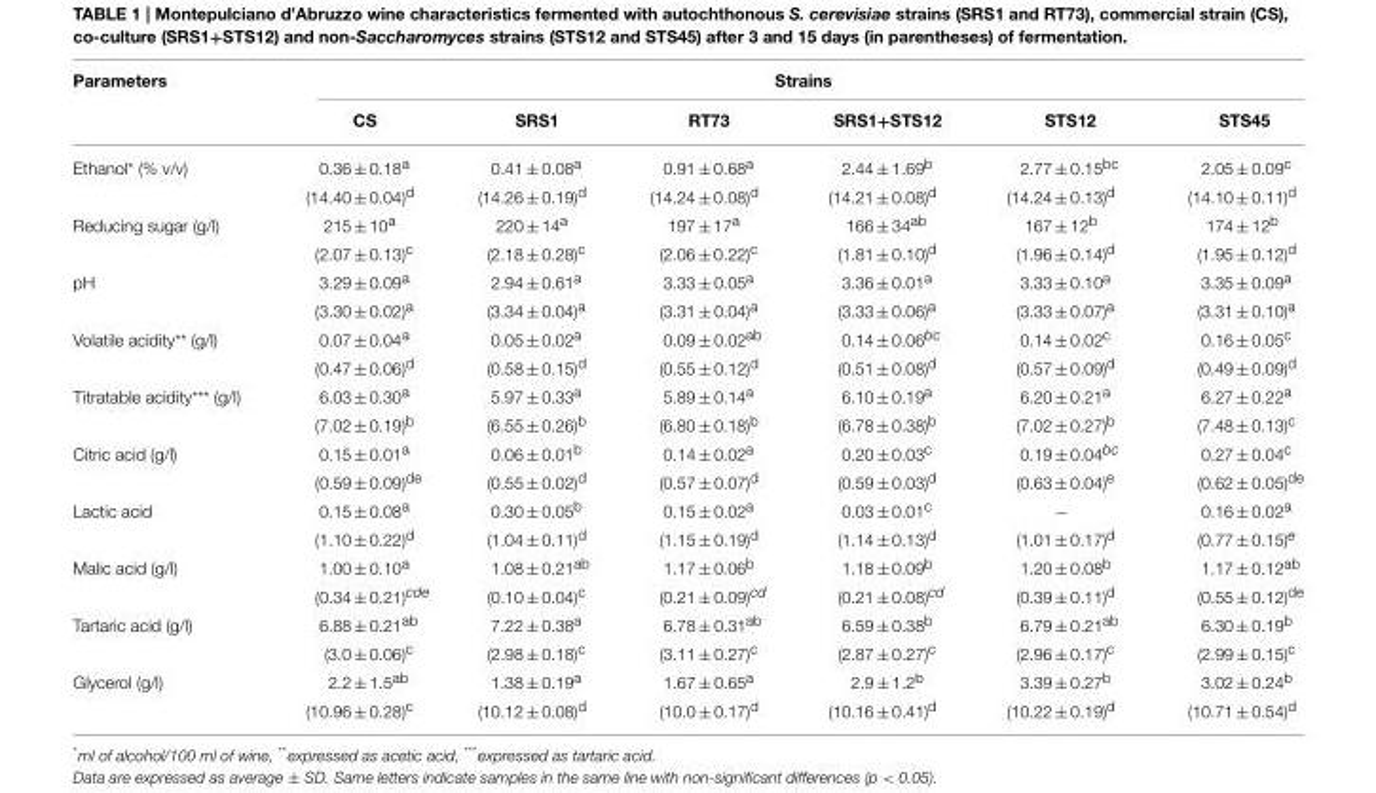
<table><thead><tr><td rowspan="2">Parameters</td><td colspan="6">Strains</td></tr><tr><td>CS</td><td>SRS1</td><td>RT73</td><td>SRS1+STS12</td><td>STS12</td><td>STS45</td></tr></thead><tbody><tr><td rowspan="2">Ethanol* (% v/v)</td><td>0.36 ± 0.18<sup>a</sup></td><td>0.41 ± 0.08<sup>a</sup></td><td>0.91 ± 0.68<sup>a</sup></td><td>2.44 ± 1.69<sup>b</sup></td><td>2.77 ± 0.15<sup>bc</sup></td><td>2.05 ± 0.09<sup>c</sup></td></tr><tr><td>(14.40 ± 0.04)<sup>d</sup></td><td>(14.26 ± 0.19)<sup>d</sup></td><td>(14.24 ± 0.08)<sup>d</sup></td><td>(14.21 ± 0.08)<sup>d</sup></td><td>(14.24 ± 0.13)<sup>d</sup></td><td>(14.10 ± 0.11)<sup>d</sup></td></tr><tr><td rowspan="2">Reducing sugar (g/l)</td><td>215 ± 10<sup>a</sup></td><td>220 ± 14<sup>a</sup></td><td>197 ± 17<sup>a</sup></td><td>166 ± 34<sup>ab</sup></td><td>167 ± 12<sup>b</sup></td><td>174 ± 12<sup>b</sup></td></tr><tr><td>(2.07 ± 0.13)<sup>c</sup></td><td>(2.18 ± 0.28)<sup>c</sup></td><td>(2.06 ± 0.22)<sup>c</sup></td><td>(1.81 ± 0.10)<sup>d</sup></td><td>(1.96 ± 0.14)<sup>d</sup></td><td>(1.95 ± 0.12)<sup>d</sup></td></tr><tr><td rowspan="2">pH</td><td>3.29 ± 0.09<sup>a</sup></td><td>2.94 ± 0.61<sup>a</sup></td><td>3.33 ± 0.05<sup>a</sup></td><td>3.36 ± 0.01<sup>a</sup></td><td>3.33 ± 0.10<sup>a</sup></td><td>3.35 ± 0.09<sup>a</sup></td></tr><tr><td>(3.30 ± 0.02)<sup>a</sup></td><td>(3.34 ± 0.04)<sup>a</sup></td><td>(3.31 ± 0.04)<sup>a</sup></td><td>(3.33 ± 0.06)<sup>a</sup></td><td>(3.33 ± 0.07)<sup>a</sup></td><td>(3.31 ± 0.10)<sup>a</sup></td></tr><tr><td rowspan="2">Volatile acidity** (g/l)</td><td>0.07 ± 0.04<sup>a</sup></td><td>0.05 ± 0.02<sup>a</sup></td><td>0.09 ± 0.02<sup>ab</sup></td><td>0.14 ± 0.06<sup>bc</sup></td><td>0.14 ± 0.02<sup>c</sup></td><td>0.16 ± 0.05<sup>c</sup></td></tr><tr><td>(0.47 ± 0.06)<sup>d</sup></td><td>(0.58 ± 0.15)<sup>d</sup></td><td>(0.55 ± 0.12)<sup>d</sup></td><td>(0.51 ± 0.08)<sup>d</sup></td><td>(0.57 ± 0.09)<sup>d</sup></td><td>(0.49 ± 0.09)<sup>d</sup></td></tr><tr><td rowspan="2">Titratable acidity*** (g/l)</td><td>6.03 ± 0.30<sup>a</sup></td><td>5.97 ± 0.33<sup>a</sup></td><td>5.89 ± 0.14<sup>a</sup></td><td>6.10 ± 0.19<sup>a</sup></td><td>6.20 ± 0.21<sup>a</sup></td><td>6.27 ± 0.22<sup>a</sup></td></tr><tr><td>(7.02 ± 0.19)<sup>b</sup></td><td>(6.55 ± 0.26)<sup>b</sup></td><td>(6.80 ± 0.18)<sup>b</sup></td><td>(6.78 ± 0.38)<sup>b</sup></td><td>(7.02 ± 0.27)<sup>b</sup></td><td>(7.48 ± 0.13)<sup>c</sup></td></tr><tr><td rowspan="2">Citric acid (g/l)</td><td>0.15 ± 0.01<sup>a</sup></td><td>0.06 ± 0.01<sup>b</sup></td><td>0.14 ± 0.02<sup>a</sup></td><td>0.20 ± 0.03<sup>c</sup></td><td>0.19 ± 0.04<sup>bc</sup></td><td>0.27 ± 0.04<sup>c</sup></td></tr><tr><td>(0.59 ± 0.09)<sup>de</sup></td><td>(0.55 ± 0.02)<sup>d</sup></td><td>(0.57 ± 0.07)<sup>d</sup></td><td>(0.59 ± 0.03)<sup>d</sup></td><td>(0.63 ± 0.04)<sup>e</sup></td><td>(0.62 ± 0.05)<sup>de</sup></td></tr><tr><td rowspan="2">Lactic acid</td><td>0.15 ± 0.08<sup>a</sup></td><td>0.30 ± 0.05<sup>b</sup></td><td>0.15 ± 0.02<sup>a</sup></td><td>0.03 ± 0.01<sup>c</sup></td><td>−</td><td>0.16 ± 0.02<sup>a</sup></td></tr><tr><td>(1.10 ± 0.22)<sup>d</sup></td><td>(1.04 ± 0.11)<sup>d</sup></td><td>(1.15 ± 0.19)<sup>d</sup></td><td>(1.14 ± 0.13)<sup>d</sup></td><td>(1.01 ± 0.17)<sup>d</sup></td><td>(0.77 ± 0.15)<sup>e</sup></td></tr><tr><td rowspan="2">Malic acid (g/l)</td><td>1.00 ± 0.10<sup>a</sup></td><td>1.08 ± 0.21<sup>ab</sup></td><td>1.17 ± 0.06<sup>b</sup></td><td>1.18 ± 0.09<sup>b</sup></td><td>1.20 ± 0.08<sup>b</sup></td><td>1.17 ± 0.12<sup>ab</sup></td></tr><tr><td>(0.34 ± 0.21)<sup>cde</sup></td><td>(0.10 ± 0.04)<sup>c</sup></td><td>(0.21 ± 0.09)<sup>cd</sup></td><td>(0.21 ± 0.08)<sup>cd</sup></td><td>(0.39 ± 0.11)<sup>d</sup></td><td>(0.55 ± 0.12)<sup>de</sup></td></tr><tr><td rowspan="2">Tartaric acid (g/l)</td><td>6.88 ± 0.21<sup>ab</sup></td><td>7.22 ± 0.38<sup>a</sup></td><td>6.78 ± 0.31<sup>ab</sup></td><td>6.59 ± 0.38<sup>b</sup></td><td>6.79 ± 0.21<sup>ab</sup></td><td>6.30 ± 0.19<sup>b</sup></td></tr><tr><td>(3.0 ± 0.06)<sup>c</sup></td><td>(2.98 ± 0.18)<sup>c</sup></td><td>(3.11 ± 0.27)<sup>c</sup></td><td>(2.87 ± 0.27)<sup>c</sup></td><td>(2.96 ± 0.17)<sup>c</sup></td><td>(2.99 ± 0.15)<sup>c</sup></td></tr><tr><td rowspan="2">Glycerol (g/l)</td><td>2.2 ± 1.5<sup>ab</sup></td><td>1.38 ± 0.19<sup>a</sup></td><td>1.67 ± 0.65<sup>a</sup></td><td>2.9 ± 1.2<sup>b</sup></td><td>3.39 ± 0.27<sup>b</sup></td><td>3.02 ± 0.24<sup>b</sup></td></tr><tr><td>(10.96 ± 0.28)<sup>c</sup></td><td>(10.12 ± 0.08)<sup>d</sup></td><td>(10.0 ± 0.17)<sup>d</sup></td><td>(10.16 ± 0.41)<sup>d</sup></td><td>(10.22 ± 0.19)<sup>d</sup></td><td>(10.71 ± 0.54)<sup>d</sup></td></tr></tbody></table>